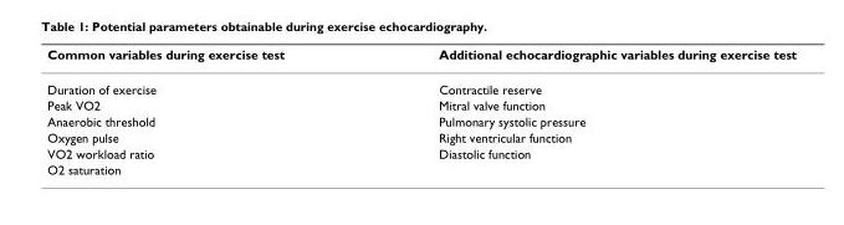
<table><thead><tr><td>Common variables during exercise test</td><td>Additional echocardiographic variables during exercise test</td></tr></thead><tbody><tr><td>Duration of exercise</td><td>Contractile reserve</td></tr><tr><td>Peak VO2</td><td>Mitral valve function</td></tr><tr><td>Anaerobic threshold</td><td>Pulmonary systolic pressure</td></tr><tr><td>Oxygen pulse</td><td>Right ventricular function</td></tr><tr><td>VO2 workload ratio</td><td>Diastolic function</td></tr><tr><td>O2 saturation</td><td></td></tr></tbody></table>